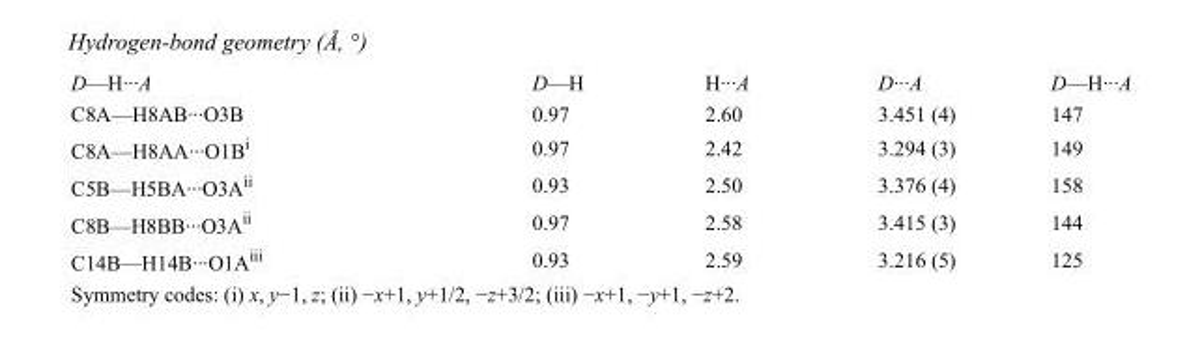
<table><tbody><tr><td>D—H···A</td><td>D—H</td><td>H···A</td><td>D···A</td><td>D—H···A</td></tr><tr><td>C8A—H8AB···O3B</td><td>0.97</td><td>2.60</td><td>3.451 (4)</td><td>147</td></tr><tr><td>C8A—H8AA···O1B<sup>i</sup></td><td>0.97</td><td>2.42</td><td>3.294 (3)</td><td>149</td></tr><tr><td>C5B—H5BA···O3A<sup>ii</sup></td><td>0.93</td><td>2.50</td><td>3.376 (4)</td><td>158</td></tr><tr><td>C8B—H8BB···O3A<sup>ii</sup></td><td>0.97</td><td>2.58</td><td>3.415 (3)</td><td>144</td></tr><tr><td>C14B—H14B···O1A<sup>iii</sup></td><td>0.93</td><td>2.59</td><td>3.216 (5)</td><td>125</td></tr></tbody></table>